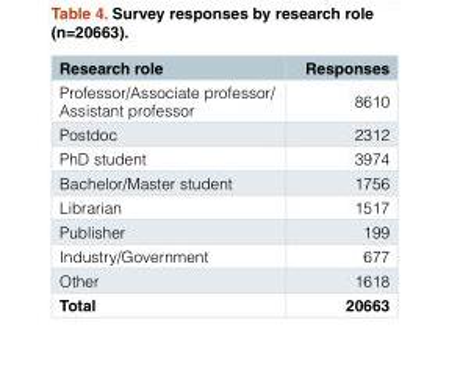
<table><thead><tr><td>Research role</td><td>Responses</td></tr></thead><tbody><tr><td>Professor/Associate professor/ Assistant professor</td><td>8610</td></tr><tr><td>Postdoc</td><td>2312</td></tr><tr><td>PhD student</td><td>3974</td></tr><tr><td>Bachelor/Master student</td><td>1756</td></tr><tr><td>Librarian</td><td>1517</td></tr><tr><td>Publisher</td><td>199</td></tr><tr><td>Industry/Government</td><td>677</td></tr><tr><td>Other</td><td>1618</td></tr><tr><td>Total</td><td>20663</td></tr></tbody></table>